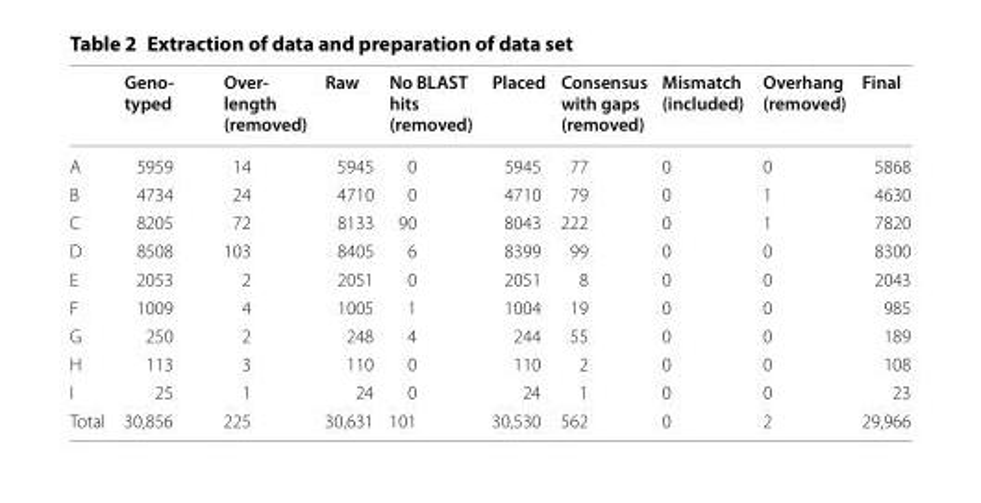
<table><thead><tr><td></td><td>Geno- typed</td><td>Over- length (removed)</td><td>Raw</td><td>No BLAST hits (removed)</td><td>Placed</td><td>Consensus with gaps (removed)</td><td>Mismatch (included)</td><td>Overhang (removed)</td><td>Final</td></tr></thead><tbody><tr><td>A</td><td>5959</td><td>14</td><td>5945</td><td>0</td><td>5945</td><td>77</td><td>0</td><td>0</td><td>5868</td></tr><tr><td>B</td><td>4734</td><td>24</td><td>4710</td><td>0</td><td>4710</td><td>79</td><td>0</td><td>1</td><td>4630</td></tr><tr><td>C</td><td>8205</td><td>72</td><td>8133</td><td>90</td><td>8043</td><td>222</td><td>0</td><td>1</td><td>7820</td></tr><tr><td>D</td><td>8508</td><td>103</td><td>8405</td><td>6</td><td>8399</td><td>99</td><td>0</td><td>0</td><td>8300</td></tr><tr><td>E</td><td>2053</td><td>2</td><td>2051</td><td>0</td><td>2051</td><td>8</td><td>0</td><td>0</td><td>2043</td></tr><tr><td>F</td><td>1009</td><td>4</td><td>1005</td><td>1</td><td>1004</td><td>19</td><td>0</td><td>0</td><td>985</td></tr><tr><td>G</td><td>250</td><td>2</td><td>248</td><td>4</td><td>244</td><td>55</td><td>0</td><td>0</td><td>189</td></tr><tr><td>H</td><td>113</td><td>3</td><td>110</td><td>0</td><td>110</td><td>2</td><td>0</td><td>0</td><td>108</td></tr><tr><td>I</td><td>25</td><td>1</td><td>24</td><td>0</td><td>24</td><td>1</td><td>0</td><td>0</td><td>23</td></tr><tr><td>Total</td><td>30,856</td><td>225</td><td>30,631</td><td>101</td><td>30,530</td><td>562</td><td>0</td><td>2</td><td>29,966</td></tr></tbody></table>